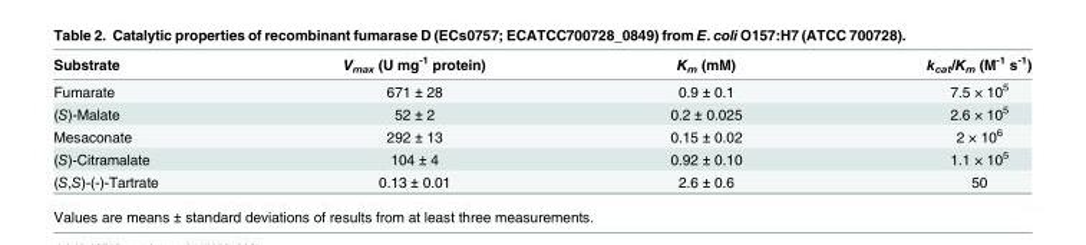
<table><thead><tr><td>Substrate</td><td>V<sub>max</sub> (U mg<sup>-1</sup> protein)</td><td>K<sub>m</sub> (mM)</td><td>k<sub>cat</sub>/K<sub>m</sub> (M<sup>-1</sup> s<sup>-1</sup>)</td></tr></thead><tbody><tr><td>Fumarate</td><td>671 ± 28</td><td>0.9 ± 0.1</td><td>7.5 × 10<sup>5</sup></td></tr><tr><td>(S)-Malate</td><td>52 ± 2</td><td>0.2 ± 0.025</td><td>2.6 × 10<sup>5</sup></td></tr><tr><td>Mesaconate</td><td>292 ± 13</td><td>0.15 ± 0.02</td><td>2 × 10<sup>6</sup></td></tr><tr><td>(S)-Citramalate</td><td>104 ± 4</td><td>0.92 ± 0.10</td><td>1.1 × 10<sup>5</sup></td></tr><tr><td>(S,S)-(-)-Tartrate</td><td>0.13 ± 0.01</td><td>2.6 ± 0.6</td><td>50</td></tr></tbody></table>